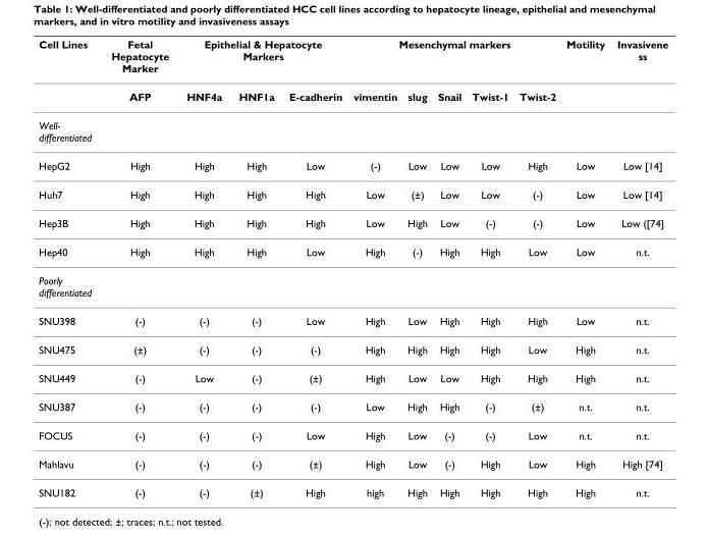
<table><thead><tr><td rowspan="2">Cell Lines</td><td rowspan="2">Fetal Hepatocyte Marker AFP</td><td colspan="3">Epithelial &amp; Hepatocyte Markers</td><td colspan="5">Mesenchymal markers</td><td rowspan="2">Motility</td><td rowspan="2">Invasivene ss</td></tr><tr><td>HNF4a</td><td>HNF1a</td><td>E-cadherin</td><td>vimentin</td><td>slug</td><td>Snail</td><td>Twist-1</td><td>Twist-2</td></tr></thead><tbody><tr><td colspan="12">Well- differentiated</td></tr><tr><td>HepG2</td><td>High</td><td>High</td><td>High</td><td>Low</td><td>(-)</td><td>Low</td><td>Low</td><td>Low</td><td>High</td><td>Low</td><td>Low [14]</td></tr><tr><td>Huh7</td><td>High</td><td>High</td><td>High</td><td>High</td><td>Low</td><td>(±)</td><td>Low</td><td>Low</td><td>(-)</td><td>Low</td><td>Low [14]</td></tr><tr><td>Hep3B</td><td>High</td><td>High</td><td>High</td><td>High</td><td>Low</td><td>High</td><td>Low</td><td>(-)</td><td>(-)</td><td>Low</td><td>Low ([74]</td></tr><tr><td>Hep40</td><td>High</td><td>High</td><td>High</td><td>Low</td><td>High</td><td>(-)</td><td>High</td><td>High</td><td>Low</td><td>Low</td><td>n.t.</td></tr><tr><td colspan="12">Poorly differentiated</td></tr><tr><td>SNU398</td><td>(-)</td><td>(-)</td><td>(-)</td><td>Low</td><td>High</td><td>Low</td><td>High</td><td>High</td><td>High</td><td>Low</td><td>n.t.</td></tr><tr><td>SNU475</td><td>(±)</td><td>(-)</td><td>(-)</td><td>(-)</td><td>High</td><td>High</td><td>High</td><td>High</td><td>Low</td><td>High</td><td>n.t.</td></tr><tr><td>SNU449</td><td>(-)</td><td>Low</td><td>(-)</td><td>(±)</td><td>High</td><td>Low</td><td>Low</td><td>High</td><td>High</td><td>High</td><td>n.t.</td></tr><tr><td>SNU387</td><td>(-)</td><td>(-)</td><td>(-)</td><td>(-)</td><td>Low</td><td>High</td><td>High</td><td>(-)</td><td>(±)</td><td>n.t.</td><td>n.t.</td></tr><tr><td>FOCUS</td><td>(-)</td><td>(-)</td><td>(-)</td><td>Low</td><td>High</td><td>Low</td><td>(-)</td><td>(-)</td><td>Low</td><td>n.t.</td><td>n.t.</td></tr><tr><td>Mahlavu</td><td>(-)</td><td>(-)</td><td>(-)</td><td>(±)</td><td>High</td><td>Low</td><td>(-)</td><td>High</td><td>Low</td><td>High</td><td>High [74]</td></tr><tr><td>SNU182</td><td>(-)</td><td>(-)</td><td>(±)</td><td>High</td><td>high</td><td>High</td><td>High</td><td>High</td><td>High</td><td>High</td><td>n.t.</td></tr></tbody></table>